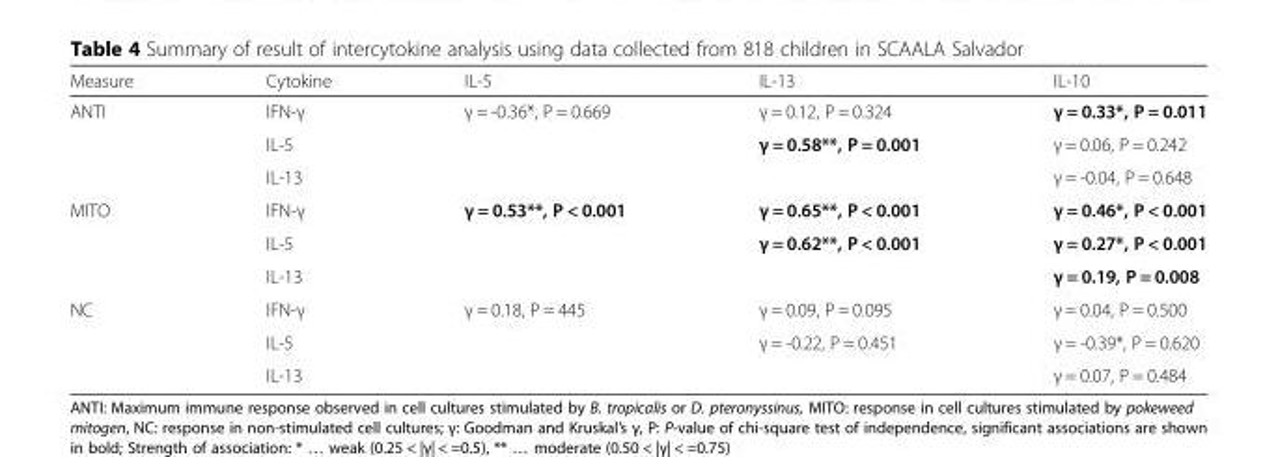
<table><thead><tr><td>Measure</td><td>Cytokine</td><td>IL-5</td><td>IL-13</td><td>IL-10</td></tr></thead><tbody><tr><td rowspan="3">ANTI</td><td>IFN-γ</td><td>γ = -0.36*, P = 0.669</td><td>γ = 0.12, P = 0.324</td><td>γ = 0.33*, P = 0.011</td></tr><tr><td>IL-5</td><td></td><td>γ = 0.58**, P = 0.001</td><td>γ = 0.06, P = 0.242</td></tr><tr><td>IL-13</td><td></td><td></td><td>γ = -0.04, P = 0.648</td></tr><tr><td rowspan="3">MITO</td><td>IFN-γ</td><td>γ = 0.53**, P &lt; 0.001</td><td>γ = 0.65**, P &lt; 0.001</td><td>γ = 0.46*, P &lt; 0.001</td></tr><tr><td>IL-5</td><td></td><td>γ = 0.62**, P &lt; 0.001</td><td>γ = 0.27*, P &lt; 0.001</td></tr><tr><td>IL-13</td><td></td><td></td><td>γ = 0.19, P = 0.008</td></tr><tr><td rowspan="3">NC</td><td>IFN-γ</td><td>γ = 0.18, P = 445</td><td>γ = 0.09, P = 0.095</td><td>γ = 0.04, P = 0.500</td></tr><tr><td>IL-5</td><td></td><td>γ = -0.22, P = 0.451</td><td>γ = -0.39*, P = 0.620</td></tr><tr><td>IL-13</td><td></td><td></td><td>γ = 0.07, P = 0.484</td></tr></tbody></table>